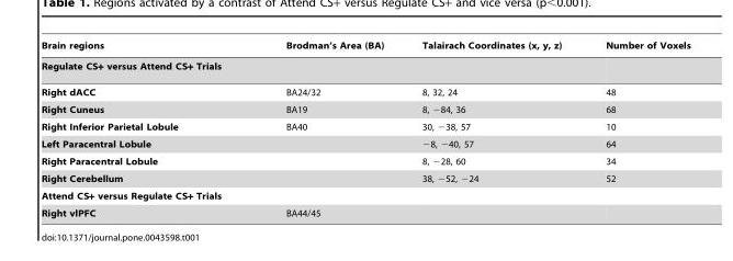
<table><thead><tr><td>Brain regions</td><td>Brodman’s Area (BA)</td><td>Talairach Coordinates (x, y, z)</td><td>Number of Voxels</td></tr></thead><tbody><tr><td colspan="4">Regulate CS+ versus Attend CS+ Trials</td></tr><tr><td>Right dACC</td><td>BA24/32</td><td>8, 32, 24</td><td>48</td></tr><tr><td>Right Cuneus</td><td>BA19</td><td>8, −84, 36</td><td>68</td></tr><tr><td>Right Inferior Parietal Lobule</td><td>BA40</td><td>30, −38, 57</td><td>10</td></tr><tr><td>Left Paracentral Lobule</td><td></td><td>−8, −40, 57</td><td>64</td></tr><tr><td>Right Paracentral Lobule</td><td></td><td>8, −28, 60</td><td>34</td></tr><tr><td>Right Cerebellum</td><td></td><td>38, −52, −24</td><td>52</td></tr><tr><td colspan="4">Attend CS+ versus Regulate CS+ Trials</td></tr><tr><td>Right vlPFC</td><td>BA44/45</td><td></td><td></td></tr></tbody></table>